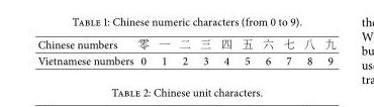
<table><tbody><tr><td>Chinese numbers</td><td>零</td><td>一</td><td>二</td><td>三</td><td>四</td><td>五</td><td>六</td><td>七</td><td>八</td><td>九</td></tr><tr><td>Vietnamese numbers</td><td>0</td><td>1</td><td>2</td><td>3</td><td>4</td><td>5</td><td>6</td><td>7</td><td>8</td><td>9</td></tr></tbody></table>